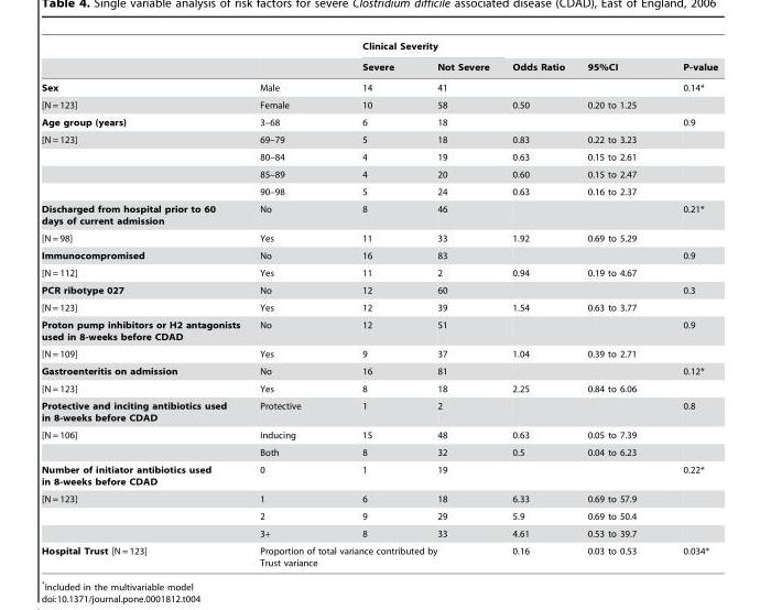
<table><thead><tr><td rowspan="2"></td><td rowspan="2"></td><td colspan="2">Clinical Severity</td><td rowspan="2">Odds Ratio</td><td rowspan="2">95%CI</td><td rowspan="2">P-value</td></tr><tr><td>Severe</td><td>Not Severe</td></tr></thead><tbody><tr><td>Sex</td><td>Male</td><td>14</td><td>41</td><td></td><td></td><td>0.14*</td></tr><tr><td>[N = 123]</td><td>Female</td><td>10</td><td>58</td><td>0.50</td><td>0.20 to 1.25</td><td></td></tr><tr><td>Age group (years)</td><td>3–68</td><td>6</td><td>18</td><td></td><td></td><td>0.9</td></tr><tr><td rowspan="4">[N = 123]</td><td>69–79</td><td>5</td><td>18</td><td>0.83</td><td>0.22 to 3.23</td><td></td></tr><tr><td>80–84</td><td>4</td><td>19</td><td>0.63</td><td>0.15 to 2.61</td><td></td></tr><tr><td>85–89</td><td>4</td><td>20</td><td>0.60</td><td>0.15 to 2.47</td><td></td></tr><tr><td>90–98</td><td>5</td><td>24</td><td>0.63</td><td>0.16 to 2.37</td><td></td></tr><tr><td>Discharged from hospital prior to 60 days of current admission</td><td>No</td><td>8</td><td>46</td><td></td><td></td><td>0.21*</td></tr><tr><td>[N = 98]</td><td>Yes</td><td>11</td><td>33</td><td>1.92</td><td>0.69 to 5.29</td><td></td></tr><tr><td>Immunocompromised</td><td>No</td><td>16</td><td>83</td><td></td><td></td><td>0.9</td></tr><tr><td>[N = 112]</td><td>Yes</td><td>11</td><td>2</td><td>0.94</td><td>0.19 to 4.67</td><td></td></tr><tr><td>PCR ribotype 027</td><td>No</td><td>12</td><td>60</td><td></td><td></td><td>0.3</td></tr><tr><td>[N = 123]</td><td>Yes</td><td>12</td><td>39</td><td>1.54</td><td>0.63 to 3.77</td><td></td></tr><tr><td>Proton pump inhibitors or H2 antagonists used in 8-weeks before CDAD</td><td>No</td><td>12</td><td>51</td><td></td><td></td><td>0.9</td></tr><tr><td>[N = 109]</td><td>Yes</td><td>9</td><td>37</td><td>1.04</td><td>0.39 to 2.71</td><td></td></tr><tr><td>Gastroenteritis on admission</td><td>No</td><td>16</td><td>81</td><td></td><td></td><td>0.12*</td></tr><tr><td>[N = 123]</td><td>Yes</td><td>8</td><td>18</td><td>2.25</td><td>0.84 to 6.06</td><td></td></tr><tr><td>Protective and inciting antibiotics used in 8-weeks before CDAD</td><td>Protective</td><td>1</td><td>2</td><td></td><td></td><td>0.8</td></tr><tr><td rowspan="2">[N = 106]</td><td>Inducing</td><td>15</td><td>48</td><td>0.63</td><td>0.05 to 7.39</td><td></td></tr><tr><td>Both</td><td>8</td><td>32</td><td>0.5</td><td>0.04 to 6.23</td><td></td></tr><tr><td>Number of initiator antibiotics used in 8-weeks before CDAD</td><td>0</td><td>1</td><td>19</td><td></td><td></td><td>0.22*</td></tr><tr><td rowspan="3">[N = 123]</td><td>1</td><td>6</td><td>18</td><td>6.33</td><td>0.69 to 57.9</td><td></td></tr><tr><td>2</td><td>9</td><td>29</td><td>5.9</td><td>0.69 to 50.4</td><td></td></tr><tr><td>3+</td><td>8</td><td>33</td><td>4.61</td><td>0.53 to 39.7</td><td></td></tr><tr><td>Hospital Trust [N = 123]</td><td colspan="2">Proportion of total variance contributed by Trust variance</td><td></td><td>0.16</td><td>0.03 to 0.53</td><td>0.034*</td></tr></tbody></table>